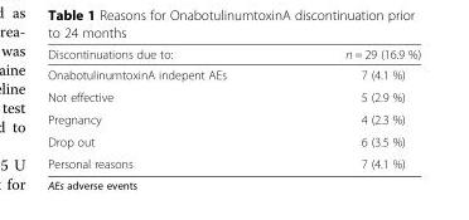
<table><thead><tr><td>Discontinuations due to:</td><td>n = 29 (16.9 %)</td></tr></thead><tbody><tr><td>OnabotulinumtoxinA indepent AEs</td><td>7 (4.1 %)</td></tr><tr><td>Not effective</td><td>5 (2.9 %)</td></tr><tr><td>Pregnancy</td><td>4 (2.3 %)</td></tr><tr><td>Drop out</td><td>6 (3.5 %)</td></tr><tr><td>Personal reasons</td><td>7 (4.1 %)</td></tr></tbody></table>